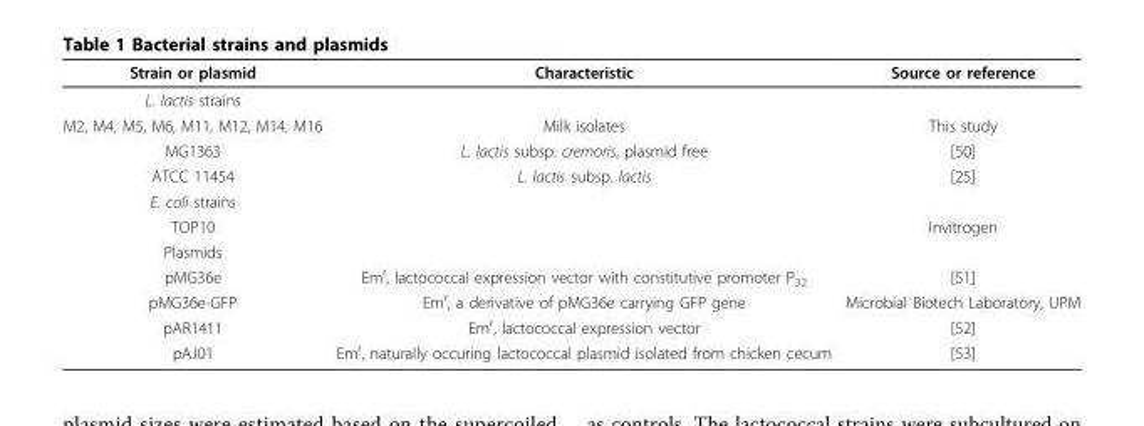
<table><thead><tr><td>Strain or plasmid</td><td>Characteristic</td><td>Source or reference</td></tr></thead><tbody><tr><td colspan="3">L. lactis strains</td></tr><tr><td>M2, M4, M5, M6, M11, M12, M14, M16</td><td>Milk isolates</td><td>This study</td></tr><tr><td>MG1363</td><td>L. lactis subsp. cremoris, plasmid free</td><td>[50]</td></tr><tr><td>ATCC 11454</td><td>L. lactis subsp. lactis</td><td>[25]</td></tr><tr><td colspan="3">E. coli strains</td></tr><tr><td>TOP10</td><td></td><td>Invitrogen</td></tr><tr><td colspan="3">Plasmids</td></tr><tr><td>pMG36e</td><td>Em<sup>r</sup>, lactococcal expression vector with constitutive promoter P<sub>32</sub></td><td>[51]</td></tr><tr><td>pMG36e-GFP</td><td>Em<sup>r</sup>, a derivative of pMG36e carrying GFP gene</td><td>Microbial Biotech Laboratory, UPM</td></tr><tr><td>pAR1411</td><td>Em<sup>r</sup>, lactococcal expression vector</td><td>[52]</td></tr><tr><td>pAJ01</td><td>Em<sup>r</sup>, naturally occuring lactococcal plasmid isolated from chicken cecum</td><td>[53]</td></tr></tbody></table>